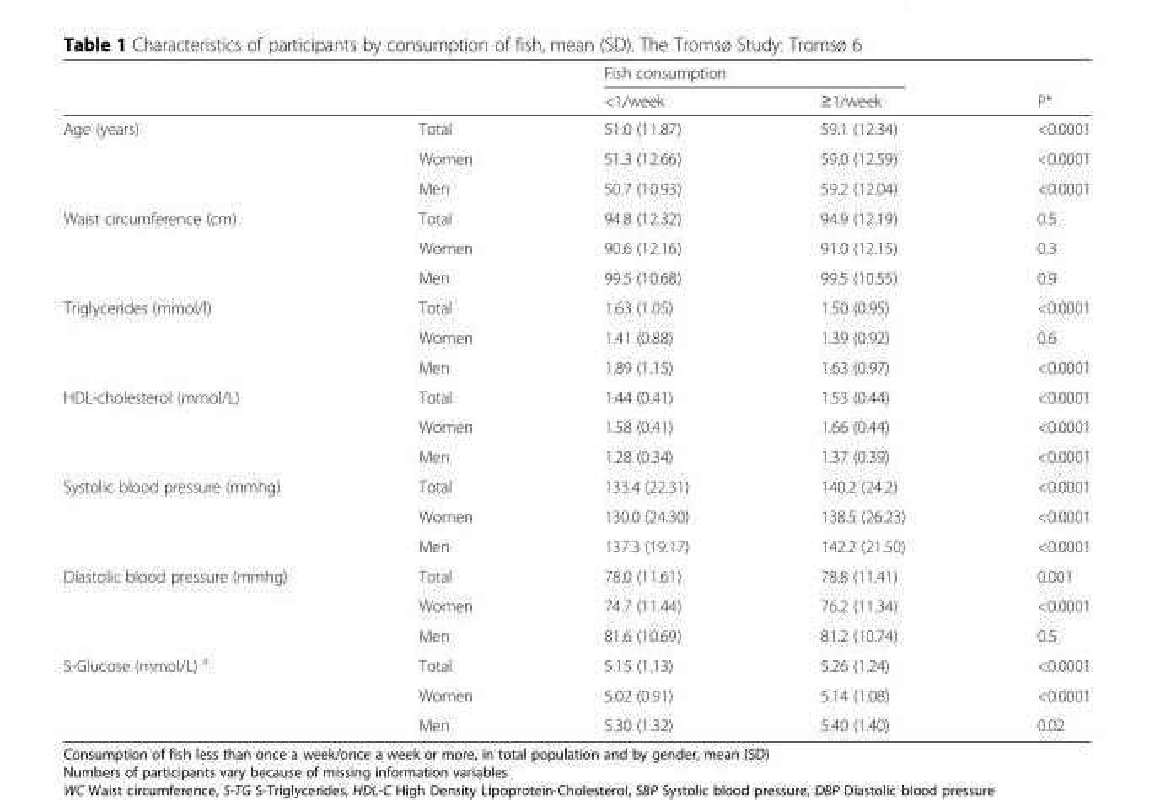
<table><thead><tr><td rowspan="2"></td><td rowspan="2"></td><td colspan="2">Fish consumption</td><td rowspan="2">P*</td></tr><tr><td>&lt;1/week</td><td>≥1/week</td></tr></thead><tbody><tr><td rowspan="3">Age (years)</td><td>Total</td><td>51.0 (11.87)</td><td>59.1 (12.34)</td><td>&lt;0.0001</td></tr><tr><td>Women</td><td>51.3 (12.66)</td><td>59.0 (12.59)</td><td>&lt;0.0001</td></tr><tr><td>Men</td><td>50.7 (10.93)</td><td>59.2 (12.04)</td><td>&lt;0.0001</td></tr><tr><td rowspan="3">Waist circumference (cm)</td><td>Total</td><td>94.8 (12.32)</td><td>94.9 (12.19)</td><td>0.5</td></tr><tr><td>Women</td><td>90.6 (12.16)</td><td>91.0 (12.15)</td><td>0.3</td></tr><tr><td>Men</td><td>99.5 (10.68)</td><td>99.5 (10.55)</td><td>0.9</td></tr><tr><td rowspan="3">Triglycerides (mmol/l)</td><td>Total</td><td>1.63 (1.05)</td><td>1.50 (0.95)</td><td>&lt;0.0001</td></tr><tr><td>Women</td><td>1.41 (0.88)</td><td>1.39 (0.92)</td><td>0.6</td></tr><tr><td>Men</td><td>1.89 (1.15)</td><td>1.63 (0.97)</td><td>&lt;0.0001</td></tr><tr><td rowspan="3">HDL-cholesterol (mmol/L)</td><td>Total</td><td>1.44 (0.41)</td><td>1.53 (0.44)</td><td>&lt;0.0001</td></tr><tr><td>Women</td><td>1.58 (0.41)</td><td>1.66 (0.44)</td><td>&lt;0.0001</td></tr><tr><td>Men</td><td>1.28 (0.34)</td><td>1.37 (0.39)</td><td>&lt;0.0001</td></tr><tr><td rowspan="3">Systolic blood pressure (mmhg)</td><td>Total</td><td>133.4 (22.31)</td><td>140.2 (24.2)</td><td>&lt;0.0001</td></tr><tr><td>Women</td><td>130.0 (24.30)</td><td>138.5 (26.23)</td><td>&lt;0.0001</td></tr><tr><td>Men</td><td>137.3 (19.17)</td><td>142.2 (21.50)</td><td>&lt;0.0001</td></tr><tr><td rowspan="3">Diastolic blood pressure (mmhg)</td><td>Total</td><td>78.0 (11.61)</td><td>78.8 (11.41)</td><td>0.001</td></tr><tr><td>Women</td><td>74.7 (11.44)</td><td>76.2 (11.34)</td><td>&lt;0.0001</td></tr><tr><td>Men</td><td>81.6 (10.69)</td><td>81.2 (10.74)</td><td>0.5</td></tr><tr><td rowspan="3">S-Glucose (mmol/L) <sup>a</sup></td><td>Total</td><td>5.15 (1.13)</td><td>5.26 (1.24)</td><td>&lt;0.0001</td></tr><tr><td>Women</td><td>5.02 (0.91)</td><td>5.14 (1.08)</td><td>&lt;0.0001</td></tr><tr><td>Men</td><td>5.30 (1.32)</td><td>5.40 (1.40)</td><td>0.02</td></tr></tbody></table>